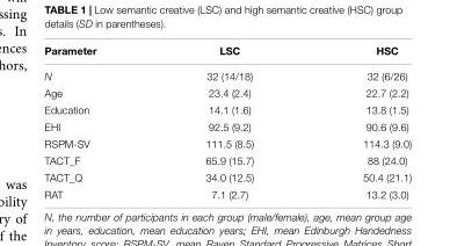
<table><thead><tr><td>Parameter</td><td>LSC</td><td>HSC</td></tr></thead><tbody><tr><td>N</td><td>32 (14/18)</td><td>32 (6/26)</td></tr><tr><td>Age</td><td>23.4 (2.4)</td><td>22.7 (2.2)</td></tr><tr><td>Education</td><td>14.1 (1.6)</td><td>13.8 (1.5)</td></tr><tr><td>EHI</td><td>92.5 (9.2)</td><td>90.6 (9.6)</td></tr><tr><td>RSPM-SV</td><td>111.5 (8.5)</td><td>114.3 (9.0)</td></tr><tr><td>TACT_F</td><td>65.9 (15.7)</td><td>88 (24.0)</td></tr><tr><td>TACT_Q</td><td>34.0 (12.5)</td><td>50.4 (21.1)</td></tr><tr><td>RAT</td><td>7.1 (2.7)</td><td>13.2 (3.0)</td></tr></tbody></table>